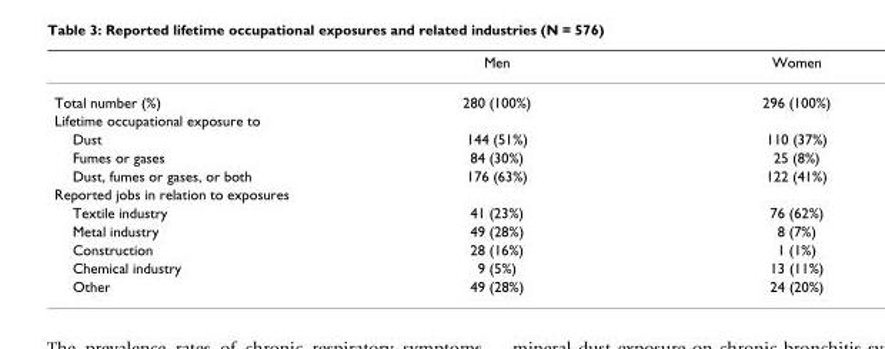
<table><thead><tr><td></td><td>Men</td><td>Women</td></tr></thead><tbody><tr><td>Total number (%)</td><td>280 (100%)</td><td>296 (100%)</td></tr><tr><td colspan="3">Lifetime occupational exposure to</td></tr><tr><td>Dust</td><td>144 (51%)</td><td>110 (37%)</td></tr><tr><td>Fumes or gases</td><td>84 (30%)</td><td>25 (8%)</td></tr><tr><td>Dust, fumes or gases, or both</td><td>176 (63%)</td><td>122 (41%)</td></tr><tr><td colspan="3">Reported jobs in relation to exposures</td></tr><tr><td>Textile industry</td><td>41 (23%)</td><td>76 (62%)</td></tr><tr><td>Metal industry</td><td>49 (28%)</td><td>8 (7%)</td></tr><tr><td>Construction</td><td>28 (16%)</td><td>1 (1%)</td></tr><tr><td>Chemical industry</td><td>9 (5%)</td><td>13 (11%)</td></tr><tr><td>Other</td><td>49 (28%)</td><td>24 (20%)</td></tr></tbody></table>